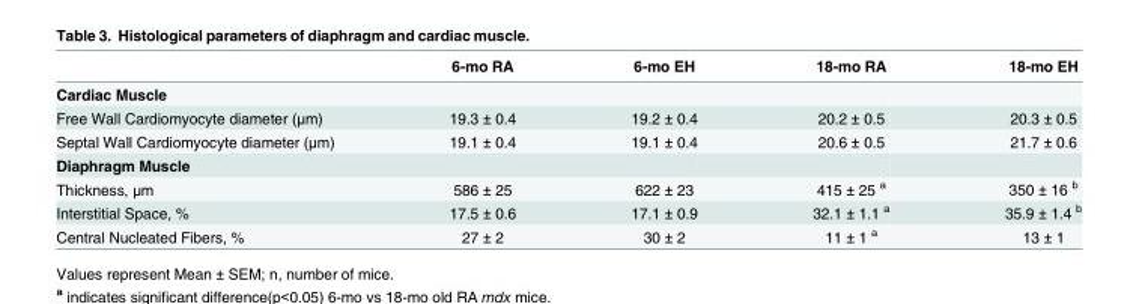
<table><thead><tr><td></td><td>6-mo RA</td><td>6-mo EH</td><td>18-mo RA</td><td>18-mo EH</td></tr></thead><tbody><tr><td colspan="5">Cardiac Muscle</td></tr><tr><td>Free Wall Cardiomyocyte diameter (μm)</td><td>19.3 ± 0.4</td><td>19.2 ± 0.4</td><td>20.2 ± 0.5</td><td>20.3 ± 0.5</td></tr><tr><td>Septal Wall Cardiomyocyte diameter (μm)</td><td>19.1 ± 0.4</td><td>19.1 ± 0.4</td><td>20.6 ± 0.5</td><td>21.7 ± 0.6</td></tr><tr><td colspan="5">Diaphragm Muscle</td></tr><tr><td>Thickness, μm</td><td>586 ± 25</td><td>622 ± 23</td><td>415 ± 25 <sup>a</sup></td><td>350 ± 16 <sup>b</sup></td></tr><tr><td>Interstitial Space, %</td><td>17.5 ± 0.6</td><td>17.1 ± 0.9</td><td>32.1 ± 1.1 <sup>a</sup></td><td>35.9 ± 1.4 <sup>b</sup></td></tr><tr><td>Central Nucleated Fibers, %</td><td>27 ± 2</td><td>30 ± 2</td><td>11 ± 1 <sup>a</sup></td><td>13 ± 1</td></tr></tbody></table>